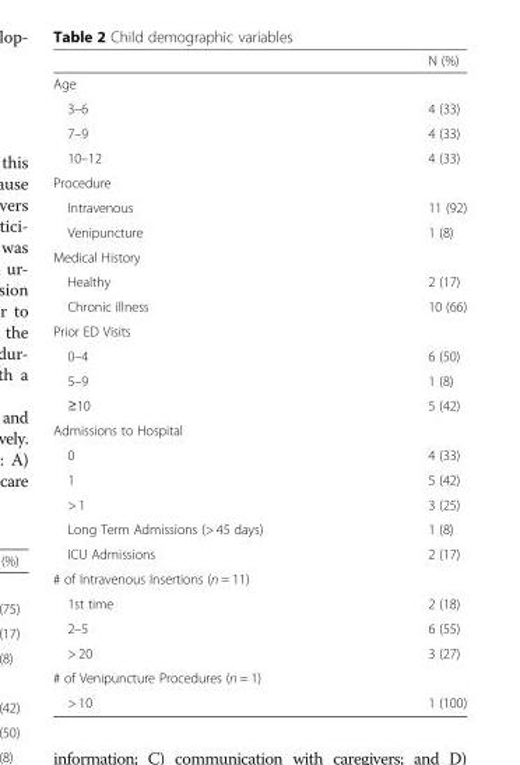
<table><thead><tr><td></td><td>N (%)</td></tr></thead><tbody><tr><td colspan="2">Age</td></tr><tr><td>3–6</td><td>4 (33)</td></tr><tr><td>7–9</td><td>4 (33)</td></tr><tr><td>10–12</td><td>4 (33)</td></tr><tr><td colspan="2">Procedure</td></tr><tr><td>Intravenous</td><td>11 (92)</td></tr><tr><td>Venipuncture</td><td>1 (8)</td></tr><tr><td colspan="2">Medical History</td></tr><tr><td>Healthy</td><td>2 (17)</td></tr><tr><td>Chronic illness</td><td>10 (66)</td></tr><tr><td colspan="2">Prior ED Visits</td></tr><tr><td>0–4</td><td>6 (50)</td></tr><tr><td>5–9</td><td>1 (8)</td></tr><tr><td>≥10</td><td>5 (42)</td></tr><tr><td colspan="2">Admissions to Hospital</td></tr><tr><td>0</td><td>4 (33)</td></tr><tr><td>1</td><td>5 (42)</td></tr><tr><td>&gt; 1</td><td>3 (25)</td></tr><tr><td>Long Term Admissions (&gt; 45 days)</td><td>1 (8)</td></tr><tr><td>ICU Admissions</td><td>2 (17)</td></tr><tr><td colspan="2"># of Intravenous Insertions (n = 11)</td></tr><tr><td>1st time</td><td>2 (18)</td></tr><tr><td>2–5</td><td>6 (55)</td></tr><tr><td>&gt; 20</td><td>3 (27)</td></tr><tr><td colspan="2"># of Venipuncture Procedures (n = 1)</td></tr><tr><td>&gt; 10</td><td>1 (100)</td></tr></tbody></table>